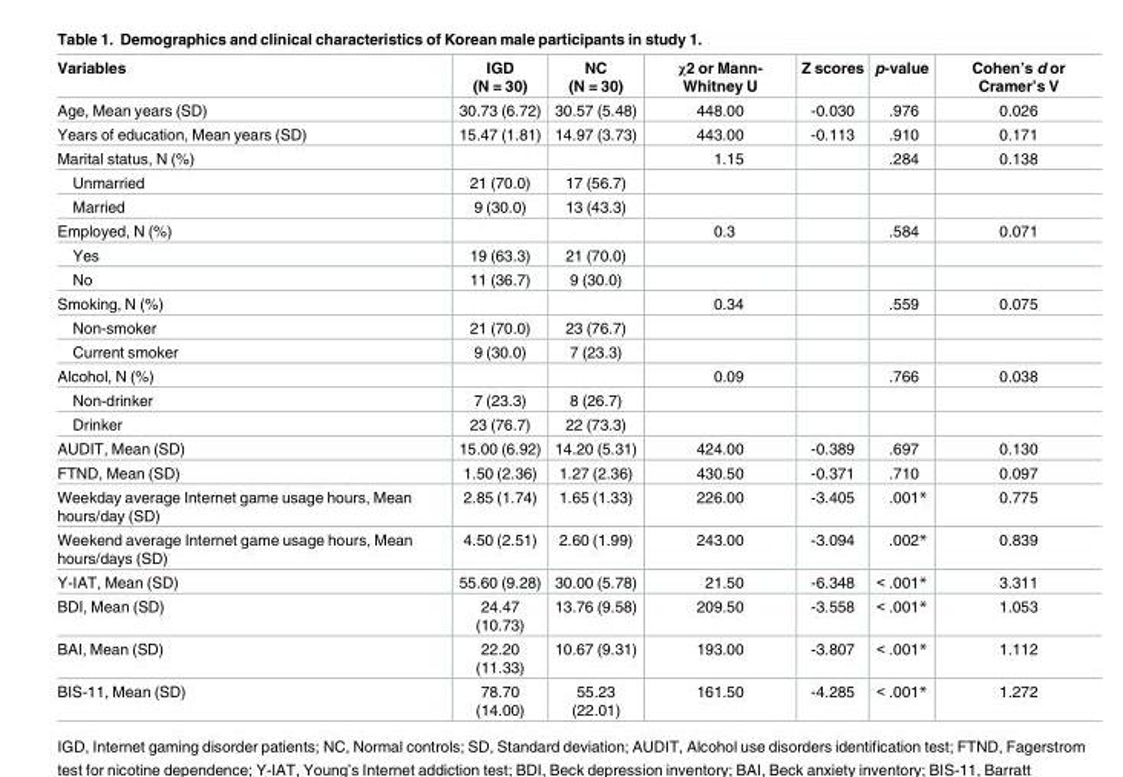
<table><thead><tr><td>Variables</td><td>IGD (N = 30)</td><td>NC (N = 30)</td><td>χ2 or Mann- Whitney U</td><td>Z scores</td><td>p-value</td><td>Cohen’s d or Cramer’s V</td></tr></thead><tbody><tr><td>Age, Mean years (SD)</td><td>30.73 (6.72)</td><td>30.57 (5.48)</td><td>448.00</td><td>-0.030</td><td>.976</td><td>0.026</td></tr><tr><td>Years of education, Mean years (SD)</td><td>15.47 (1.81)</td><td>14.97 (3.73)</td><td>443.00</td><td>-0.113</td><td>.910</td><td>0.171</td></tr><tr><td>Marital status, N (%)</td><td></td><td></td><td>1.15</td><td></td><td>.284</td><td>0.138</td></tr><tr><td>Unmarried</td><td>21 (70.0)</td><td>17 (56.7)</td><td></td><td></td><td></td><td></td></tr><tr><td>Married</td><td>9 (30.0)</td><td>13 (43.3)</td><td></td><td></td><td></td><td></td></tr><tr><td>Employed, N (%)</td><td></td><td></td><td>0.3</td><td></td><td>.584</td><td>0.071</td></tr><tr><td>Yes</td><td>19 (63.3)</td><td>21 (70.0)</td><td></td><td></td><td></td><td></td></tr><tr><td>No</td><td>11 (36.7)</td><td>9 (30.0)</td><td></td><td></td><td></td><td></td></tr><tr><td>Smoking, N (%)</td><td></td><td></td><td>0.34</td><td></td><td>.559</td><td>0.075</td></tr><tr><td>Non-smoker</td><td>21 (70.0)</td><td>23 (76.7)</td><td></td><td></td><td></td><td></td></tr><tr><td>Current smoker</td><td>9 (30.0)</td><td>7 (23.3)</td><td></td><td></td><td></td><td></td></tr><tr><td>Alcohol, N (%)</td><td></td><td></td><td>0.09</td><td></td><td>.766</td><td>0.038</td></tr><tr><td>Non-drinker</td><td>7 (23.3)</td><td>8 (26.7)</td><td></td><td></td><td></td><td></td></tr><tr><td>Drinker</td><td>23 (76.7)</td><td>22 (73.3)</td><td></td><td></td><td></td><td></td></tr><tr><td>AUDIT, Mean (SD)</td><td>15.00 (6.92)</td><td>14.20 (5.31)</td><td>424.00</td><td>-0.389</td><td>.697</td><td>0.130</td></tr><tr><td>FTND, Mean (SD)</td><td>1.50 (2.36)</td><td>1.27 (2.36)</td><td>430.50</td><td>-0.371</td><td>.710</td><td>0.097</td></tr><tr><td>Weekday average Internet game usage hours, Mean hours/day (SD)</td><td>2.85 (1.74)</td><td>1.65 (1.33)</td><td>226.00</td><td>-3.405</td><td>.001*</td><td>0.775</td></tr><tr><td>Weekend average Internet game usage hours, Mean hours/days (SD)</td><td>4.50 (2.51)</td><td>2.60 (1.99)</td><td>243.00</td><td>-3.094</td><td>.002*</td><td>0.839</td></tr><tr><td>Y-IAT, Mean (SD)</td><td>55.60 (9.28)</td><td>30.00 (5.78)</td><td>21.50</td><td>-6.348</td><td>&lt; .001*</td><td>3.311</td></tr><tr><td>BDI, Mean (SD)</td><td>24.47 (10.73)</td><td>13.76 (9.58)</td><td>209.50</td><td>-3.558</td><td>&lt; .001*</td><td>1.053</td></tr><tr><td>BAI, Mean (SD)</td><td>22.20 (11.33)</td><td>10.67 (9.31)</td><td>193.00</td><td>-3.807</td><td>&lt; .001*</td><td>1.112</td></tr><tr><td>BIS-11, Mean (SD)</td><td>78.70 (14.00)</td><td>55.23 (22.01)</td><td>161.50</td><td>-4.285</td><td>&lt; .001*</td><td>1.272</td></tr></tbody></table>